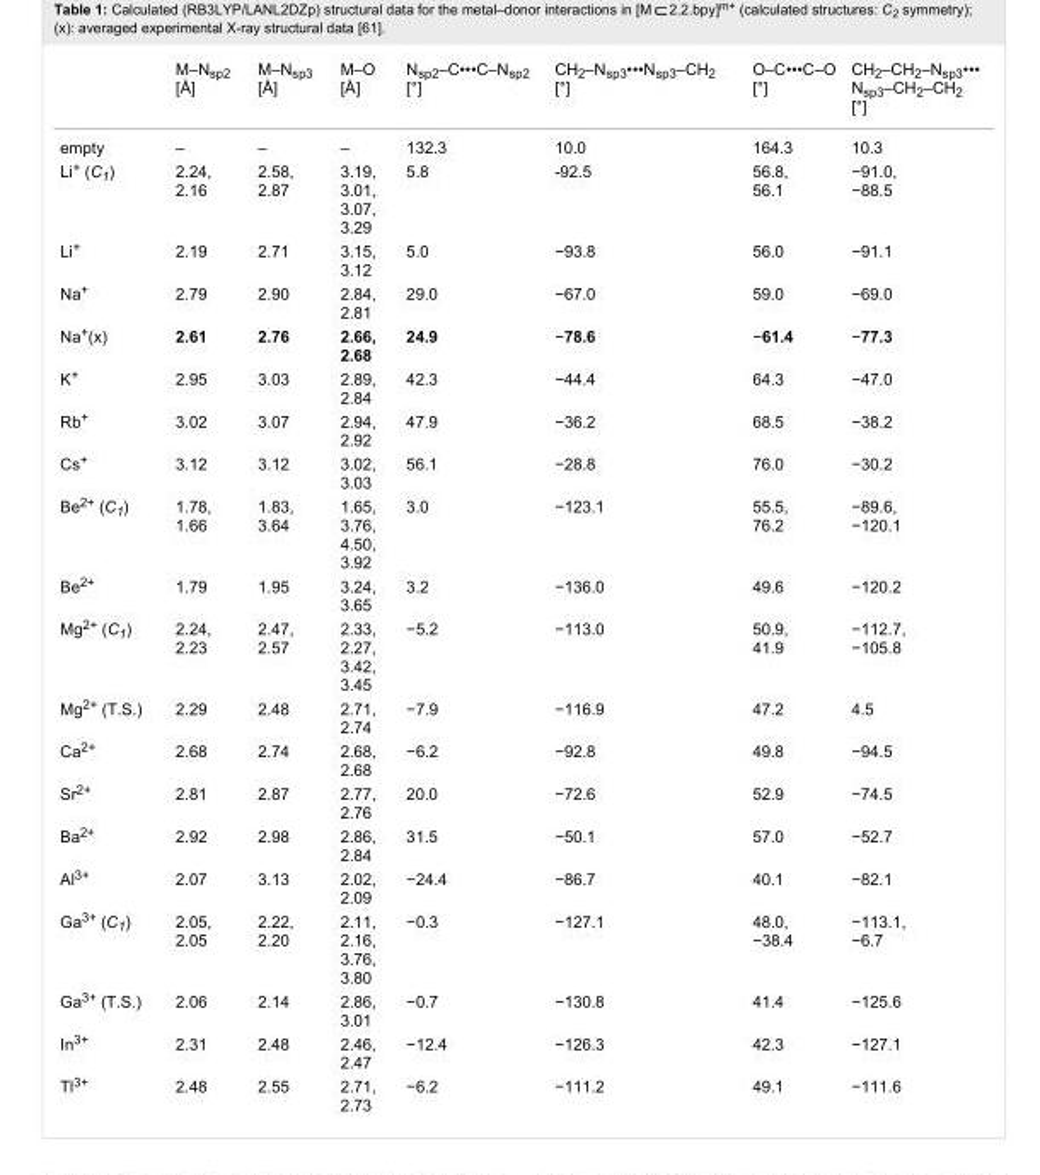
<table><thead><tr><td></td><td>M–N<sub>sp2</sub> [Å]</td><td>M–N<sub>sp3</sub> [Å]</td><td>M–O [Å]</td><td>N<sub>sp2</sub>–C•••C–N<sub>sp2</sub> [°]</td><td>CH<sub>2</sub>–N<sub>sp3</sub>•••N<sub>sp3</sub>–CH<sub>2</sub> [°]</td><td>O–C•••C–O [°]</td><td>CH<sub>2</sub>–CH<sub>2</sub>–N<sub>sp3</sub>••• N<sub>sp3</sub>–CH<sub>2</sub>–CH<sub>2</sub> [°]</td></tr></thead><tbody><tr><td>empty</td><td>–</td><td>–</td><td>–</td><td>132.3</td><td>10.0</td><td>164.3</td><td>10.3</td></tr><tr><td>Li<sup>+</sup> (C<sub>1</sub>)</td><td>2.24, 2.16</td><td>2.58, 2.87</td><td>3.19, 3.01, 3.07, 3.29</td><td>5.8</td><td>-92.5</td><td>56.8, 56.1</td><td>−91.0, −88.5</td></tr><tr><td>Li<sup>+</sup></td><td>2.19</td><td>2.71</td><td>3.15, 3.12</td><td>5.0</td><td>−93.8</td><td>56.0</td><td>−91.1</td></tr><tr><td>Na<sup>+</sup></td><td>2.79</td><td>2.90</td><td>2.84, 2.81</td><td>29.0</td><td>−67.0</td><td>59.0</td><td>−69.0</td></tr><tr><td>Na<sup>+</sup>(x)</td><td>2.61</td><td>2.76</td><td>2.66, 2.68</td><td>24.9</td><td>−78.6</td><td>−61.4</td><td>−77.3</td></tr><tr><td>K<sup>+</sup></td><td>2.95</td><td>3.03</td><td>2.89, 2.84</td><td>42.3</td><td>−44.4</td><td>64.3</td><td>−47.0</td></tr><tr><td>Rb<sup>+</sup></td><td>3.02</td><td>3.07</td><td>2.94, 2.92</td><td>47.9</td><td>−36.2</td><td>68.5</td><td>−38.2</td></tr><tr><td>Cs<sup>+</sup></td><td>3.12</td><td>3.12</td><td>3.02, 3.03</td><td>56.1</td><td>−28.8</td><td>76.0</td><td>−30.2</td></tr><tr><td>Be<sup>2+</sup> (C<sub>1</sub>)</td><td>1.78, 1.66</td><td>1.83, 3.64</td><td>1.65, 3.76, 4.50, 3.92</td><td>3.0</td><td>−123.1</td><td>55.5, 76.2</td><td>−89.6, −120.1</td></tr><tr><td>Be<sup>2+</sup></td><td>1.79</td><td>1.95</td><td>3.24, 3.65</td><td>3.2</td><td>−136.0</td><td>49.6</td><td>−120.2</td></tr><tr><td>Mg<sup>2+</sup> (C<sub>1</sub>)</td><td>2.24, 2.23</td><td>2.47, 2.57</td><td>2.33, 2.27, 3.42, 3.45</td><td>−5.2</td><td>−113.0</td><td>50.9, 41.9</td><td>−112.7, −105.8</td></tr><tr><td>Mg<sup>2+</sup> (T.S.)</td><td>2.29</td><td>2.48</td><td>2.71, 2.74</td><td>−7.9</td><td>−116.9</td><td>47.2</td><td>4.5</td></tr><tr><td>Ca<sup>2+</sup></td><td>2.68</td><td>2.74</td><td>2.68, 2.68</td><td>−6.2</td><td>−92.8</td><td>49.8</td><td>−94.5</td></tr><tr><td>Sr<sup>2+</sup></td><td>2.81</td><td>2.87</td><td>2.77, 2.76</td><td>20.0</td><td>−72.6</td><td>52.9</td><td>−74.5</td></tr><tr><td>Ba<sup>2+</sup></td><td>2.92</td><td>2.98</td><td>2.86, 2.84</td><td>31.5</td><td>−50.1</td><td>57.0</td><td>−52.7</td></tr><tr><td>Al<sup>3+</sup></td><td>2.07</td><td>3.13</td><td>2.02, 2.09</td><td>−24.4</td><td>−86.7</td><td>40.1</td><td>−82.1</td></tr><tr><td>Ga<sup>3+</sup> (C<sub>1</sub>)</td><td>2.05, 2.05</td><td>2.22, 2.20</td><td>2.11, 2.16, 3.76, 3.80</td><td>−0.3</td><td>−127.1</td><td>48.0, −38.4</td><td>−113.1, −6.7</td></tr><tr><td>Ga<sup>3+</sup> (T.S.)</td><td>2.06</td><td>2.14</td><td>2.86, 3.01</td><td>−0.7</td><td>−130.8</td><td>41.4</td><td>−125.6</td></tr><tr><td>In<sup>3+</sup></td><td>2.31</td><td>2.48</td><td>2.46, 2.47</td><td>−12.4</td><td>−126.3</td><td>42.3</td><td>−127.1</td></tr><tr><td>Tl<sup>3+</sup></td><td>2.48</td><td>2.55</td><td>2.71, 2.73</td><td>−6.2</td><td>−111.2</td><td>49.1</td><td>−111.6</td></tr></tbody></table>